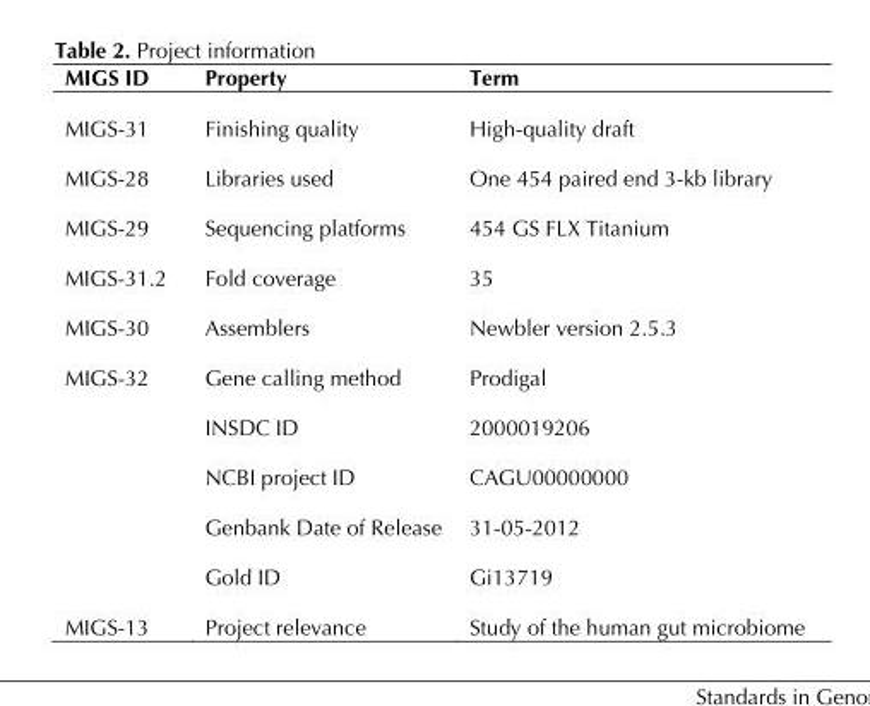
<table><thead><tr><td>MIGS ID</td><td>Property</td><td>Term</td></tr></thead><tbody><tr><td>MIGS-31</td><td>Finishing quality</td><td>High-quality draft</td></tr><tr><td>MIGS-28</td><td>Libraries used</td><td>One 454 paired end 3-kb library</td></tr><tr><td>MIGS-29</td><td>Sequencing platforms</td><td>454 GS FLX Titanium</td></tr><tr><td>MIGS-31.2</td><td>Fold coverage</td><td>35</td></tr><tr><td>MIGS-30</td><td>Assemblers</td><td>Newbler version 2.5.3</td></tr><tr><td rowspan="5">MIGS-32</td><td>Gene calling method</td><td>Prodigal</td></tr><tr><td>INSDC ID</td><td>2000019206</td></tr><tr><td>NCBI project ID</td><td>CAGU00000000</td></tr><tr><td>Genbank Date of Release</td><td>31-05-2012</td></tr><tr><td>Gold ID</td><td>Gi13719</td></tr><tr><td>MIGS-13</td><td>Project relevance</td><td>Study of the human gut microbiome</td></tr></tbody></table>